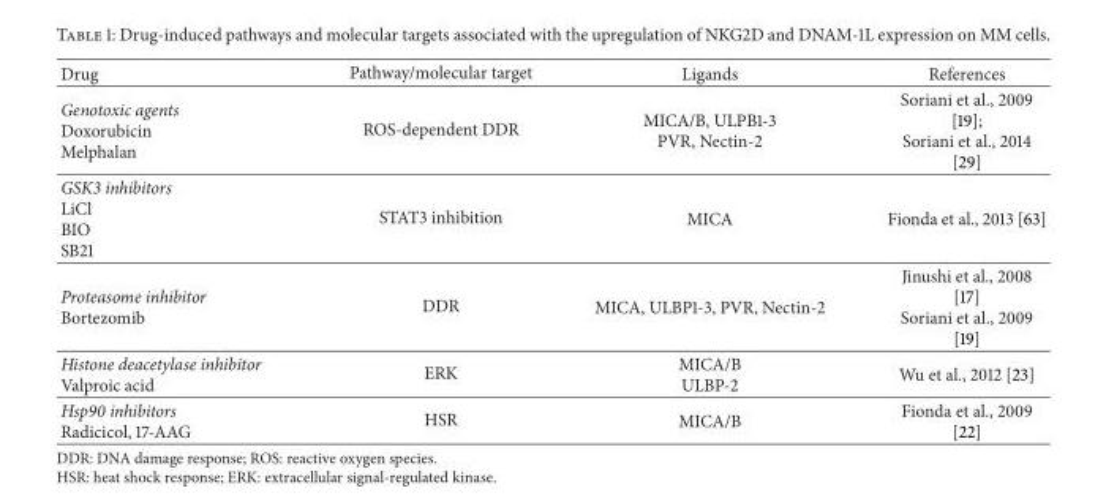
<table><thead><tr><td>Drug</td><td>Pathway/molecular target</td><td>Ligands</td><td>References</td></tr></thead><tbody><tr><td>Genotoxic agents Doxorubicin Melphalan</td><td>ROS-dependent DDR</td><td>MICA/B, ULPB1-3 PVR, Nectin-2</td><td>Soriani et al., 2009 [19]; Soriani et al., 2014 [29]</td></tr><tr><td>GSK3 inhibitors LiCl BIO SB21</td><td>STAT3 inhibition</td><td>MICA</td><td>Fionda et al., 2013 [63]</td></tr><tr><td>Proteasome inhibitor Bortezomib</td><td>DDR</td><td>MICA, ULBP1-3, PVR, Nectin-2</td><td>Jinushi et al., 2008 [17] Soriani et al., 2009 [19]</td></tr><tr><td>Histone deacetylase inhibitor Valproic acid</td><td>ERK</td><td>MICA/B ULBP-2</td><td>Wu et al., 2012 [23]</td></tr><tr><td>Hsp90 inhibitors Radicicol, 17-AAG</td><td>HSR</td><td>MICA/B</td><td>Fionda et al., 2009 [22]</td></tr></tbody></table>